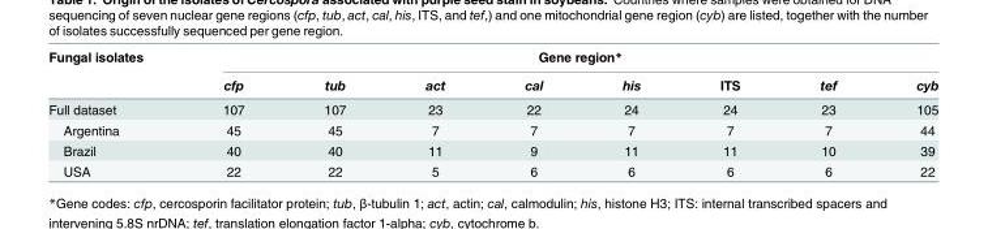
<table><thead><tr><td rowspan="2">Fungal isolates</td><td colspan="8">Gene region*</td></tr><tr><td>cfp</td><td>tub</td><td>act</td><td>cal</td><td>his</td><td>ITS</td><td>tef</td><td>cyb</td></tr></thead><tbody><tr><td>Full dataset</td><td>107</td><td>107</td><td>23</td><td>22</td><td>24</td><td>24</td><td>23</td><td>105</td></tr><tr><td>Argentina</td><td>45</td><td>45</td><td>7</td><td>7</td><td>7</td><td>7</td><td>7</td><td>44</td></tr><tr><td>Brazil</td><td>40</td><td>40</td><td>11</td><td>9</td><td>11</td><td>11</td><td>10</td><td>39</td></tr><tr><td>USA</td><td>22</td><td>22</td><td>5</td><td>6</td><td>6</td><td>6</td><td>6</td><td>22</td></tr></tbody></table>